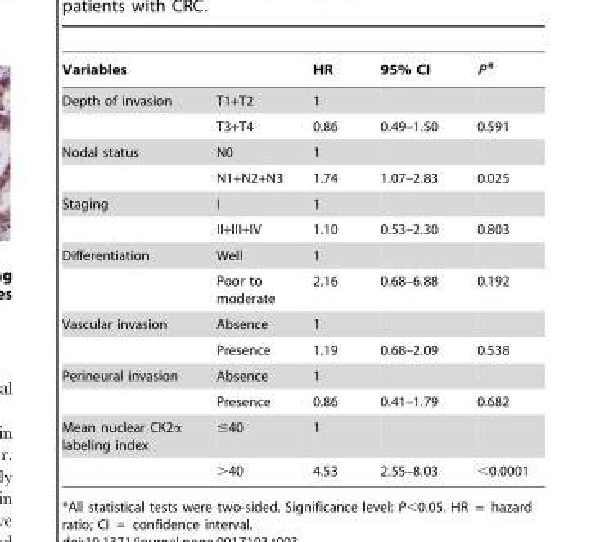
<table><thead><tr><td>Variables</td><td></td><td>HR</td><td>95% CI</td><td>P*</td></tr></thead><tbody><tr><td rowspan="2">Depth of invasion</td><td>T1+T2</td><td>1</td><td></td><td></td></tr><tr><td>T3+T4</td><td>0.86</td><td>0.49–1.50</td><td>0.591</td></tr><tr><td rowspan="2">Nodal status</td><td>N0</td><td>1</td><td></td><td></td></tr><tr><td>N1+N2+N3</td><td>1.74</td><td>1.07–2.83</td><td>0.025</td></tr><tr><td rowspan="2">Staging</td><td>I</td><td>1</td><td></td><td></td></tr><tr><td>II+III+IV</td><td>1.10</td><td>0.53–2.30</td><td>0.803</td></tr><tr><td rowspan="2">Differentiation</td><td>Well</td><td>1</td><td></td><td></td></tr><tr><td>Poor to moderate</td><td>2.16</td><td>0.68–6.88</td><td>0.192</td></tr><tr><td rowspan="2">Vascular invasion</td><td>Absence</td><td>1</td><td></td><td></td></tr><tr><td>Presence</td><td>1.19</td><td>0.68–2.09</td><td>0.538</td></tr><tr><td rowspan="2">Perineural invasion</td><td>Absence</td><td>1</td><td></td><td></td></tr><tr><td>Presence</td><td>0.86</td><td>0.41–1.79</td><td>0.682</td></tr><tr><td rowspan="2">Mean nuclear CK2α labeling index</td><td>≤40</td><td>1</td><td></td><td></td></tr><tr><td>&gt;40</td><td>4.53</td><td>2.55–8.03</td><td>&lt;0.0001</td></tr></tbody></table>